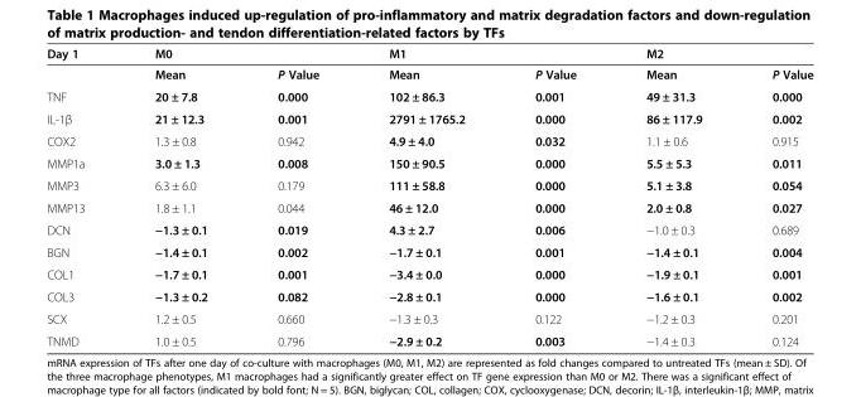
<table><thead><tr><td rowspan="2">Day 1</td><td colspan="2">M0</td><td colspan="2">M1</td><td colspan="2">M2</td></tr><tr><td>Mean</td><td>P Value</td><td>Mean</td><td>P Value</td><td>Mean</td><td>P Value</td></tr></thead><tbody><tr><td>TNF</td><td>20 ± 7.8</td><td>0.000</td><td>102 ± 86.3</td><td>0.001</td><td>49 ± 31.3</td><td>0.000</td></tr><tr><td>IL-1β</td><td>21 ± 12.3</td><td>0.001</td><td>2791 ± 1765.2</td><td>0.000</td><td>86 ± 117.9</td><td>0.002</td></tr><tr><td>COX2</td><td>1.3 ± 0.8</td><td>0.942</td><td>4.9 ± 4.0</td><td>0.032</td><td>1.1 ± 0.6</td><td>0.915</td></tr><tr><td>MMP1a</td><td>3.0 ± 1.3</td><td>0.008</td><td>150 ± 90.5</td><td>0.000</td><td>5.5 ± 5.3</td><td>0.011</td></tr><tr><td>MMP3</td><td>6.3 ± 6.0</td><td>0.179</td><td>111 ± 58.8</td><td>0.000</td><td>5.1 ± 3.8</td><td>0.054</td></tr><tr><td>MMP13</td><td>1.8 ± 1.1</td><td>0.044</td><td>46 ± 12.0</td><td>0.000</td><td>2.0 ± 0.8</td><td>0.027</td></tr><tr><td>DCN</td><td>−1.3 ± 0.1</td><td>0.019</td><td>4.3 ± 2.7</td><td>0.006</td><td>−1.0 ± 0.3</td><td>0.689</td></tr><tr><td>BGN</td><td>−1.4 ± 0.1</td><td>0.002</td><td>−1.7 ± 0.1</td><td>0.001</td><td>−1.4 ± 0.1</td><td>0.004</td></tr><tr><td>COL1</td><td>−1.7 ± 0.1</td><td>0.001</td><td>−3.4 ± 0.0</td><td>0.000</td><td>−1.9 ± 0.1</td><td>0.001</td></tr><tr><td>COL3</td><td>−1.3 ± 0.2</td><td>0.082</td><td>−2.8 ± 0.1</td><td>0.000</td><td>−1.6 ± 0.1</td><td>0.002</td></tr><tr><td>SCX</td><td>1.2 ± 0.5</td><td>0.660</td><td>−1.3 ± 0.3</td><td>0.122</td><td>−1.2 ± 0.3</td><td>0.201</td></tr><tr><td>TNMD</td><td>1.0 ± 0.5</td><td>0.796</td><td>−2.9 ± 0.2</td><td>0.003</td><td>−1.4 ± 0.3</td><td>0.124</td></tr></tbody></table>